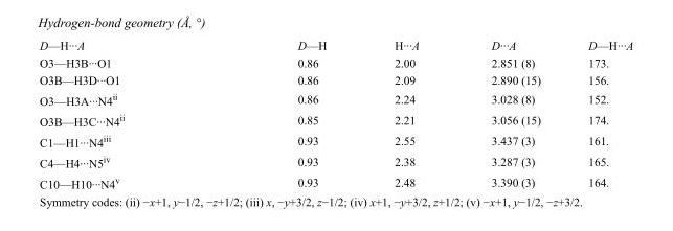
<table><tbody><tr><td>D—H···A</td><td>D—H</td><td>H···A</td><td>D···A</td><td>D—H···A</td></tr><tr><td>O3—H3B···O1</td><td>0.86</td><td>2.00</td><td>2.851 (8)</td><td>173.</td></tr><tr><td>O3B—H3D···O1</td><td>0.86</td><td>2.09</td><td>2.890 (15)</td><td>156.</td></tr><tr><td>O3—H3A···N4<sup>ii</sup></td><td>0.86</td><td>2.24</td><td>3.028 (8)</td><td>152.</td></tr><tr><td>O3B—H3C···N4<sup>ii</sup></td><td>0.85</td><td>2.21</td><td>3.056 (15)</td><td>174.</td></tr><tr><td>C1—H1···N4<sup>iii</sup></td><td>0.93</td><td>2.55</td><td>3.437 (3)</td><td>161.</td></tr><tr><td>C4—H4···N5<sup>iv</sup></td><td>0.93</td><td>2.38</td><td>3.287 (3)</td><td>165.</td></tr><tr><td>C10—H10···N4<sup>v</sup></td><td>0.93</td><td>2.48</td><td>3.390 (3)</td><td>164.</td></tr></tbody></table>